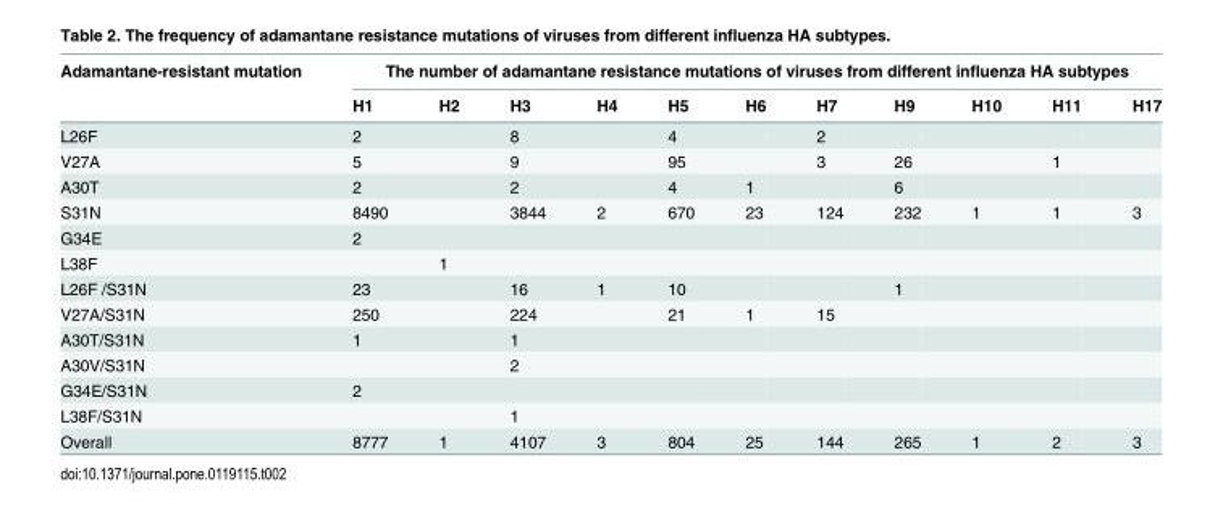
<table><thead><tr><td rowspan="2">Adamantane-resistant mutation</td><td colspan="11">The number of adamantane resistance mutations of viruses from different influenza HA subtypes</td></tr><tr><td>H1</td><td>H2</td><td>H3</td><td>H4</td><td>H5</td><td>H6</td><td>H7</td><td>H9</td><td>H10</td><td>H11</td><td>H17</td></tr></thead><tbody><tr><td>L26F</td><td>2</td><td></td><td>8</td><td></td><td>4</td><td></td><td>2</td><td></td><td></td><td></td><td></td></tr><tr><td>V27A</td><td>5</td><td></td><td>9</td><td></td><td>95</td><td></td><td>3</td><td>26</td><td></td><td>1</td><td></td></tr><tr><td>A30T</td><td>2</td><td></td><td>2</td><td></td><td>4</td><td>1</td><td></td><td>6</td><td></td><td></td><td></td></tr><tr><td>S31N</td><td>8490</td><td></td><td>3844</td><td>2</td><td>670</td><td>23</td><td>124</td><td>232</td><td>1</td><td>1</td><td>3</td></tr><tr><td>G34E</td><td>2</td><td></td><td></td><td></td><td></td><td></td><td></td><td></td><td></td><td></td><td></td></tr><tr><td>L38F</td><td></td><td>1</td><td></td><td></td><td></td><td></td><td></td><td></td><td></td><td></td><td></td></tr><tr><td>L26F /S31N</td><td>23</td><td></td><td>16</td><td>1</td><td>10</td><td></td><td></td><td>1</td><td></td><td></td><td></td></tr><tr><td>V27A/S31N</td><td>250</td><td></td><td>224</td><td></td><td>21</td><td>1</td><td>15</td><td></td><td></td><td></td><td></td></tr><tr><td>A30T/S31N</td><td>1</td><td></td><td>1</td><td></td><td></td><td></td><td></td><td></td><td></td><td></td><td></td></tr><tr><td>A30V/S31N</td><td></td><td></td><td>2</td><td></td><td></td><td></td><td></td><td></td><td></td><td></td><td></td></tr><tr><td>G34E/S31N</td><td>2</td><td></td><td></td><td></td><td></td><td></td><td></td><td></td><td></td><td></td><td></td></tr><tr><td>L38F/S31N</td><td></td><td></td><td>1</td><td></td><td></td><td></td><td></td><td></td><td></td><td></td><td></td></tr><tr><td>Overall</td><td>8777</td><td>1</td><td>4107</td><td>3</td><td>804</td><td>25</td><td>144</td><td>265</td><td>1</td><td>2</td><td>3</td></tr></tbody></table>